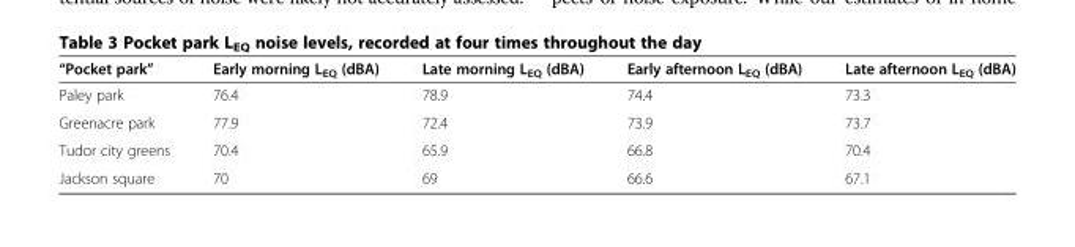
<table><thead><tr><td>“Pocket park”</td><td>Early morning L<sub>EQ</sub> (dBA)</td><td>Late morning L<sub>EQ</sub> (dBA)</td><td>Early afternoon L<sub>EQ</sub> (dBA)</td><td>Late afternoon L<sub>EQ</sub> (dBA)</td></tr></thead><tbody><tr><td>Paley park</td><td>76.4</td><td>78.9</td><td>74.4</td><td>73.3</td></tr><tr><td>Greenacre park</td><td>77.9</td><td>72.4</td><td>73.9</td><td>73.7</td></tr><tr><td>Tudor city greens</td><td>70.4</td><td>65.9</td><td>66.8</td><td>70.4</td></tr><tr><td>Jackson square</td><td>70</td><td>69</td><td>66.6</td><td>67.1</td></tr></tbody></table>